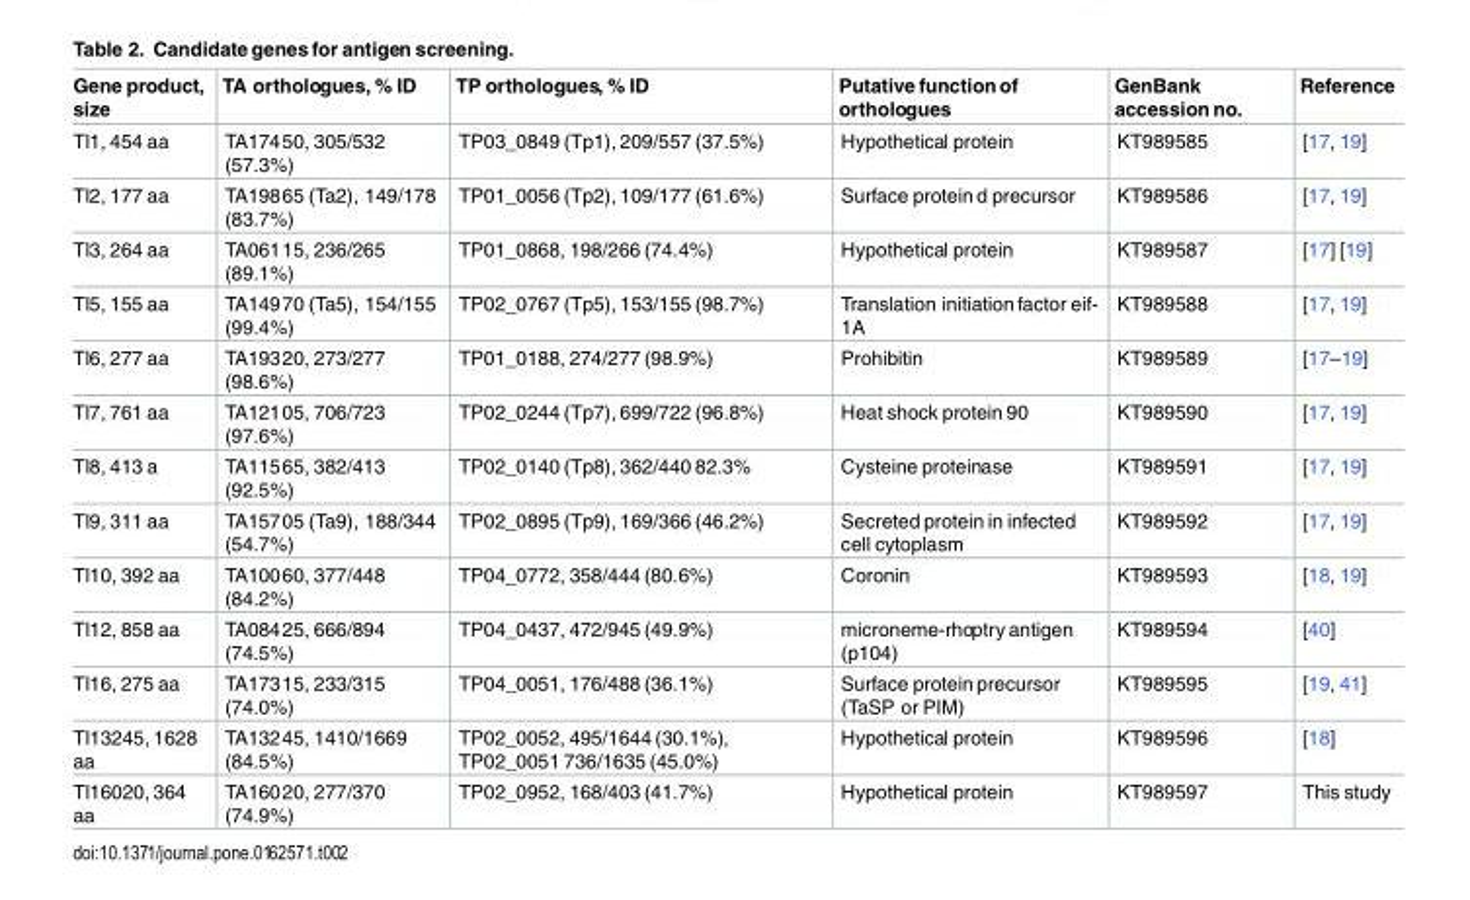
<table><thead><tr><td>Gene product, size</td><td>TA orthologues, % ID</td><td>TP orthologues, % ID</td><td>Putative function of orthologues</td><td>GenBank accession no.</td><td>Reference</td></tr></thead><tbody><tr><td>Tl1, 454 aa</td><td>TA17450, 305/532 (57.3%)</td><td>TP03_0849 (Tp1), 209/557 (37.5%)</td><td>Hypothetical protein</td><td>KT989585</td><td>[17, 19]</td></tr><tr><td>Tl2, 177 aa</td><td>TA19865 (Ta2), 149/178 (83.7%)</td><td>TP01_0056 (Tp2), 109/177 (61.6%)</td><td>Surface protein d precursor</td><td>KT989586</td><td>[17, 19]</td></tr><tr><td>Tl3, 264 aa</td><td>TA06115, 236/265 (89.1%)</td><td>TP01_0868, 198/266 (74.4%)</td><td>Hypothetical protein</td><td>KT989587</td><td>[17] [19]</td></tr><tr><td>Tl5, 155 aa</td><td>TA14970 (Ta5), 154/155 (99.4%)</td><td>TP02_0767 (Tp5), 153/155 (98.7%)</td><td>Translation initiation factor eif- 1A</td><td>KT989588</td><td>[17, 19]</td></tr><tr><td>Tl6, 277 aa</td><td>TA19320, 273/277 (98.6%)</td><td>TP01_0188, 274/277 (98.9%)</td><td>Prohibitin</td><td>KT989589</td><td>[17–19]</td></tr><tr><td>Tl7, 761 aa</td><td>TA12105, 706/723 (97.6%)</td><td>TP02_0244 (Tp7), 699/722 (96.8%)</td><td>Heat shock protein 90</td><td>KT989590</td><td>[17, 19]</td></tr><tr><td>Tl8, 413 a</td><td>TA11565, 382/413 (92.5%)</td><td>TP02_0140 (Tp8), 362/440 82.3%</td><td>Cysteine proteinase</td><td>KT989591</td><td>[17, 19]</td></tr><tr><td>Tl9, 311 aa</td><td>TA15705 (Ta9), 188/344 (54.7%)</td><td>TP02_0895 (Tp9), 169/366 (46.2%)</td><td>Secreted protein in infected cell cytoplasm</td><td>KT989592</td><td>[17, 19]</td></tr><tr><td>Tl10, 392 aa</td><td>TA10060, 377/448 (84.2%)</td><td>TP04_0772, 358/444 (80.6%)</td><td>Coronin</td><td>KT989593</td><td>[18, 19]</td></tr><tr><td>Tl12, 858 aa</td><td>TA08425, 666/894 (74.5%)</td><td>TP04_0437, 472/945 (49.9%)</td><td>microneme-rhoptry antigen (p104)</td><td>KT989594</td><td>[40]</td></tr><tr><td>Tl16, 275 aa</td><td>TA17315, 233/315 (74.0%)</td><td>TP04_0051, 176/488 (36.1%)</td><td>Surface protein precursor (TaSP or PIM)</td><td>KT989595</td><td>[19, 41]</td></tr><tr><td>Tl13245, 1628 aa</td><td>TA13245, 1410/1669 (84.5%)</td><td>TP02_0052, 495/1644 (30.1%), TP02_0051 736/1635 (45.0%)</td><td>Hypothetical protein</td><td>KT989596</td><td>[18]</td></tr><tr><td>Tl16020, 364 aa</td><td>TA16020, 277/370 (74.9%)</td><td>TP02_0952, 168/403 (41.7%)</td><td>Hypothetical protein</td><td>KT989597</td><td>This study</td></tr></tbody></table>